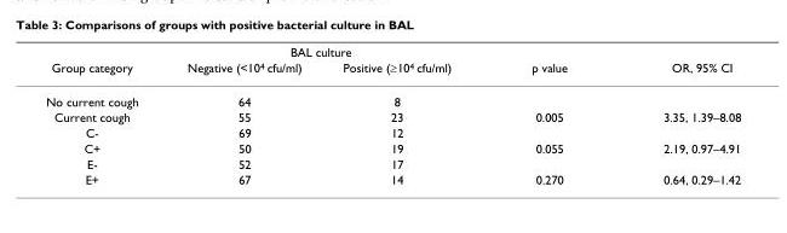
<table><thead><tr><td rowspan="2">Group category</td><td colspan="2">BAL culture</td><td rowspan="2">p value</td><td rowspan="2">OR, 95% CI</td></tr><tr><td>Negative (&lt;10<sup>4</sup> cfu/ml)</td><td>Positive (≥10<sup>4</sup> cfu/ml)</td></tr></thead><tbody><tr><td>No current cough</td><td>64</td><td>8</td><td></td><td></td></tr><tr><td>Current cough</td><td>55</td><td>23</td><td>0.005</td><td>3.35, 1.39–8.08</td></tr><tr><td>C-</td><td>69</td><td>12</td><td></td><td></td></tr><tr><td>C+</td><td>50</td><td>19</td><td>0.055</td><td>2.19, 0.97–4.91</td></tr><tr><td>E-</td><td>52</td><td>17</td><td></td><td></td></tr><tr><td>E+</td><td>67</td><td>14</td><td>0.270</td><td>0.64, 0.29–1.42</td></tr></tbody></table>